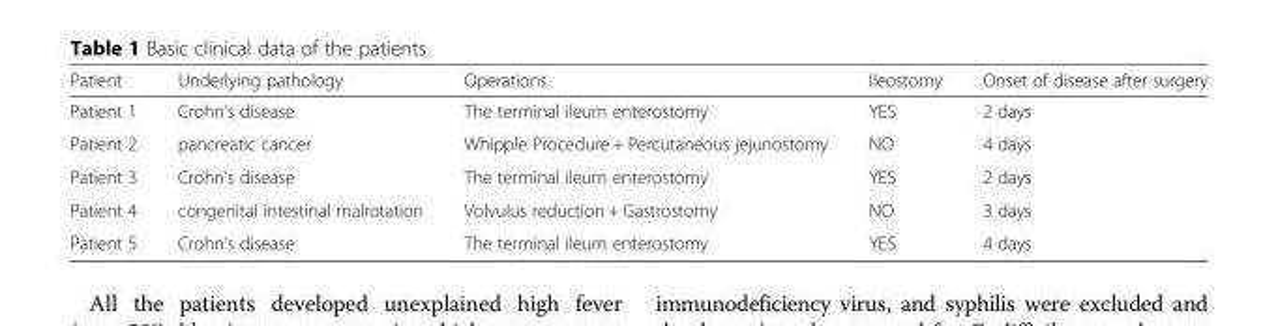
<table><thead><tr><td>Patient</td><td>Underlying pathology</td><td>Operations</td><td>Ileostomy</td><td>Onset of disease after surgery</td></tr></thead><tbody><tr><td>Patient 1</td><td>Crohn’s disease</td><td>The terminal ileum enterostomy</td><td>YES</td><td>2 days</td></tr><tr><td>Patient 2</td><td>pancreatic cancer</td><td>Whipple Procedure + Percutaneous jejunostomy</td><td>NO</td><td>4 days</td></tr><tr><td>Patient 3</td><td>Crohn’s disease</td><td>The terminal ileum enterostomy</td><td>YES</td><td>2 days</td></tr><tr><td>Patient 4</td><td>congenital intestinal malrotation</td><td>Volvulus reduction + Gastrostomy</td><td>NO</td><td>3 days</td></tr><tr><td>Patient 5</td><td>Crohn’s disease</td><td>The terminal ileum enterostomy</td><td>YES</td><td>4 days</td></tr></tbody></table>